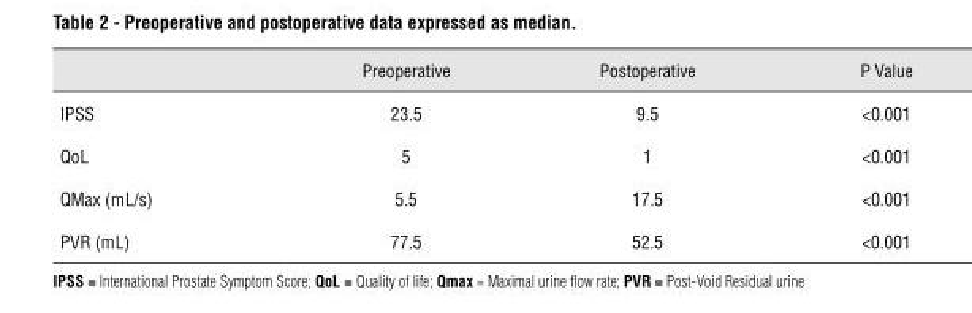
<table><thead><tr><td></td><td>Preoperative</td><td>Postoperative</td><td>P Value</td></tr></thead><tbody><tr><td>IPSS</td><td>23.5</td><td>9.5</td><td>&lt;0.001</td></tr><tr><td>QoL</td><td>5</td><td>1</td><td>&lt;0.001</td></tr><tr><td>QMax (mL/s)</td><td>5.5</td><td>17.5</td><td>&lt;0.001</td></tr><tr><td>PVR (mL)</td><td>77.5</td><td>52.5</td><td>&lt;0.001</td></tr></tbody></table>